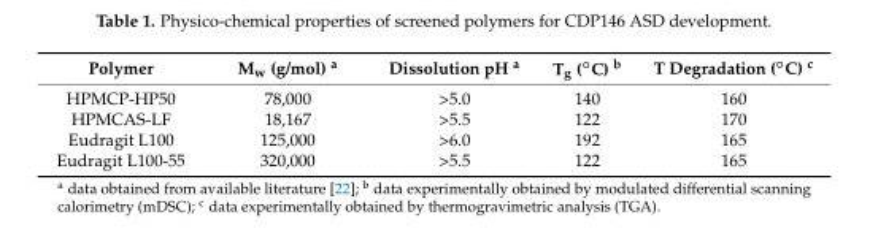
<table><thead><tr><td>Polymer</td><td>M<sub>w</sub> (g/mol) <sup>a</sup></td><td>Dissolution pH <sup>a</sup></td><td>Tg (◦C) b</td><td>T Degradation (◦C) c</td></tr></thead><tbody><tr><td>HPMCP-HP50</td><td>78,000</td><td>&gt;5.0</td><td>140</td><td>160</td></tr><tr><td>HPMCAS-LF</td><td>18,167</td><td>&gt;5.5</td><td>122</td><td>170</td></tr><tr><td>Eudragit L100</td><td>125,000</td><td>&gt;6.0</td><td>192</td><td>165</td></tr><tr><td>Eudragit L100-55</td><td>320,000</td><td>&gt;5.5</td><td>122</td><td>165</td></tr></tbody></table>